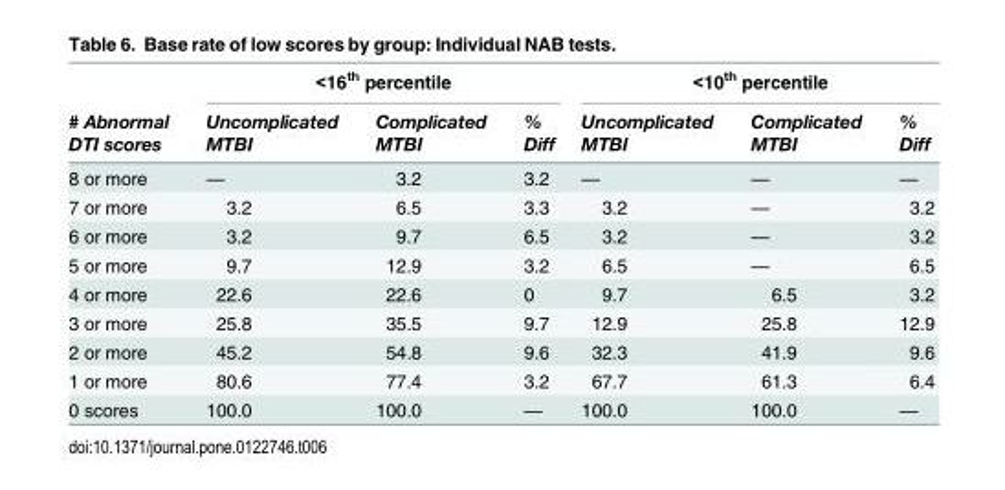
<table><thead><tr><td rowspan="2"># Abnormal DTI scores</td><td colspan="3">&lt;16<sup>th</sup> percentile</td><td colspan="3">&lt;10<sup>th</sup> percentile</td></tr><tr><td>Uncomplicated MTBI</td><td>Complicated MTBI</td><td>% Diff</td><td>Uncomplicated MTBI</td><td>Complicated MTBI</td><td>% Diff</td></tr></thead><tbody><tr><td>8 or more</td><td>—</td><td>3.2</td><td>3.2</td><td>—</td><td>—</td><td>—</td></tr><tr><td>7 or more</td><td>3.2</td><td>6.5</td><td>3.3</td><td>3.2</td><td>—</td><td>3.2</td></tr><tr><td>6 or more</td><td>3.2</td><td>9.7</td><td>6.5</td><td>3.2</td><td>—</td><td>3.2</td></tr><tr><td>5 or more</td><td>9.7</td><td>12.9</td><td>3.2</td><td>6.5</td><td>—</td><td>6.5</td></tr><tr><td>4 or more</td><td>22.6</td><td>22.6</td><td>0</td><td>9.7</td><td>6.5</td><td>3.2</td></tr><tr><td>3 or more</td><td>25.8</td><td>35.5</td><td>9.7</td><td>12.9</td><td>25.8</td><td>12.9</td></tr><tr><td>2 or more</td><td>45.2</td><td>54.8</td><td>9.6</td><td>32.3</td><td>41.9</td><td>9.6</td></tr><tr><td>1 or more</td><td>80.6</td><td>77.4</td><td>3.2</td><td>67.7</td><td>61.3</td><td>6.4</td></tr><tr><td>0 scores</td><td>100.0</td><td>100.0</td><td>—</td><td>100.0</td><td>100.0</td><td>—</td></tr></tbody></table>